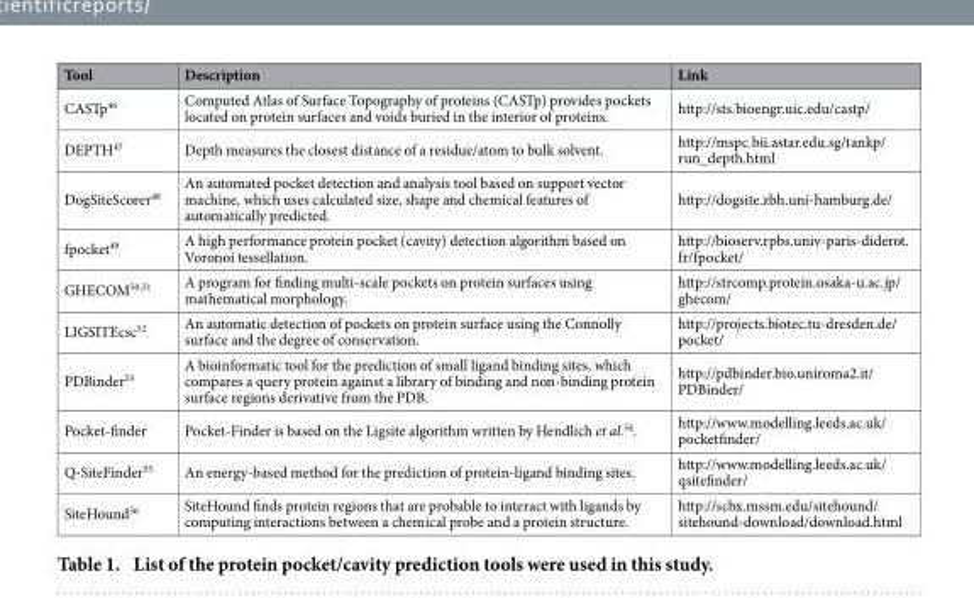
<table><thead><tr><td>Tool</td><td>Description</td><td>Link</td></tr></thead><tbody><tr><td>CASTp<sup>46</sup></td><td>Computed Atlas of Surface Topography of proteins (CASTp) provides pockets located on protein surfaces and voids buried in the interior of proteins.</td><td>http://sts.bioengr.uic.edu/castp/</td></tr><tr><td>DEPTH<sup>47</sup></td><td>Depth measures the closest distance of a residue/atom to bulk solvent.</td><td>http://mspc.bii.astar.edu.sg/tankp/ run_depth.html</td></tr><tr><td>DogSiteScorer<sup>48</sup></td><td>An automated pocket detection and analysis tool based on support vector machine, which uses calculated size, shape and chemical features of automatically predicted.</td><td>http://dogsite.zbh.uni-hamburg.de/</td></tr><tr><td>fpocket<sup>49</sup></td><td>A high performance protein pocket (cavity) detection algorithm based on Voronoi tessellation.</td><td>http://bioserv.rpbs.univ-paris-diderot. fr/fpocket/</td></tr><tr><td>GHECOM<sup>50</sup>,<sup>51</sup></td><td>A program for finding multi-scale pockets on protein surfaces using mathematical morphology.</td><td>http://strcomp.protein.osaka-u.ac.jp/ ghecom/</td></tr><tr><td>LIGSITEcsc<sup>52</sup></td><td>An automatic detection of pockets on protein surface using the Connolly surface and the degree of conservation.</td><td>http://projects.biotec.tu-dresden.de/ pocket/</td></tr><tr><td>PDBinder<sup>53</sup></td><td>A bioinformatic tool for the prediction of small ligand binding sites, which compares a query protein against a library of binding and non-binding protein surface regions derivative from the PDB.</td><td>http://pdbinder.bio.uniroma2.it/ PDBinder/</td></tr><tr><td>Pocket-finder</td><td>Pocket-Finder is based on the Ligsite algorithm written by Hendlich et al.<sup>54</sup>.</td><td>http://www.modelling.leeds.ac.uk/ pocketfinder/</td></tr><tr><td>Q-SiteFinder<sup>55</sup></td><td>An energy-based method for the prediction of protein-ligand binding sites.</td><td>http://www.modelling.leeds.ac.uk/ qsitefinder/</td></tr><tr><td>SiteHound<sup>56</sup></td><td>SiteHound finds protein regions that are probable to interact with ligands by computing interactions between a chemical probe and a protein structure.</td><td>http://scbx.mssm.edu/sitehound/ sitehound-download/download.html</td></tr></tbody></table>